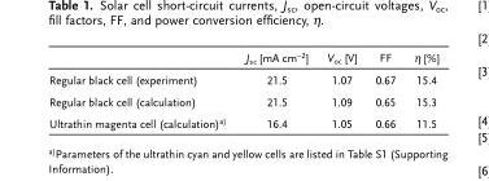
<table><thead><tr><td></td><td>J<sub>sc</sub> [mA cm<sup>−2</sup>]</td><td>V<sub>oc</sub> [V]</td><td>FF</td><td>η [%]</td></tr></thead><tbody><tr><td>Regular black cell (experiment)</td><td>21.5</td><td>1.07</td><td>0.67</td><td>15.4</td></tr><tr><td>Regular black cell (calculation)</td><td>21.5</td><td>1.09</td><td>0.65</td><td>15.3</td></tr><tr><td>Ultrathin magenta cell (calculation)a)</td><td>16.4</td><td>1.05</td><td>0.66</td><td>11.5</td></tr></tbody></table>